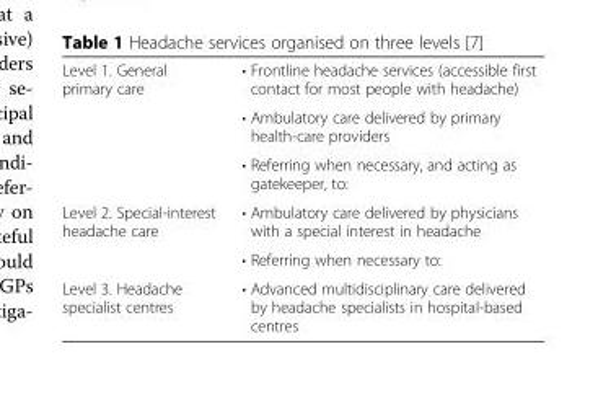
<table><tbody><tr><td rowspan="3">Level 1. General primary care</td><td>• Frontline headache services (accessible first contact for most people with headache)</td></tr><tr><td>• Ambulatory care delivered by primary health-care providers</td></tr><tr><td>• Referring when necessary, and acting as gatekeeper, to:</td></tr><tr><td rowspan="2">Level 2. Special-interest headache care</td><td>• Ambulatory care delivered by physicians with a special interest in headache</td></tr><tr><td>• Referring when necessary to:</td></tr><tr><td>Level 3. Headache specialist centres</td><td>• Advanced multidisciplinary care delivered by headache specialists in hospital-based centres</td></tr></tbody></table>